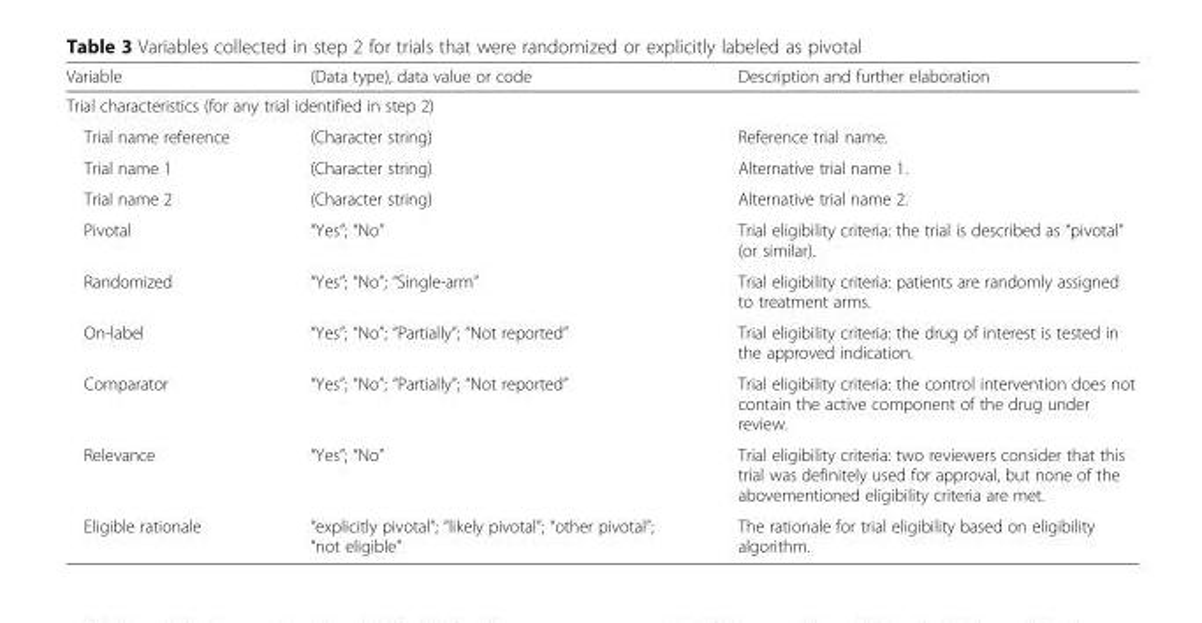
<table><thead><tr><td>Variable</td><td>(Data type), data value or code</td><td>Description and further elaboration</td></tr></thead><tbody><tr><td colspan="3">Trial characteristics (for any trial identified in step 2)</td></tr><tr><td>Trial name reference</td><td>(Character string)</td><td>Reference trial name.</td></tr><tr><td>Trial name 1</td><td>(Character string)</td><td>Alternative trial name 1.</td></tr><tr><td>Trial name 2</td><td>(Character string)</td><td>Alternative trial name 2.</td></tr><tr><td>Pivotal</td><td>“Yes”; “No”</td><td>Trial eligibility criteria: the trial is described as “pivotal” (or similar).</td></tr><tr><td>Randomized</td><td>“Yes”; “No”; “Single-arm”</td><td>Trial eligibility criteria: patients are randomly assigned to treatment arms.</td></tr><tr><td>On-label</td><td>“Yes”; “No”; “Partially”; “Not reported”</td><td>Trial eligibility criteria: the drug of interest is tested in the approved indication.</td></tr><tr><td>Comparator</td><td>“Yes”; “No”; “Partially”; “Not reported”</td><td>Trial eligibility criteria: the control intervention does not contain the active component of the drug under review.</td></tr><tr><td>Relevance</td><td>“Yes”; “No”</td><td>Trial eligibility criteria: two reviewers consider that this trial was definitely used for approval, but none of the abovementioned eligibility criteria are met.</td></tr><tr><td>Eligible rationale</td><td>“explicitly pivotal”; “likely pivotal”; “other pivotal”; “not eligible”</td><td>The rationale for trial eligibility based on eligibility algorithm.</td></tr></tbody></table>